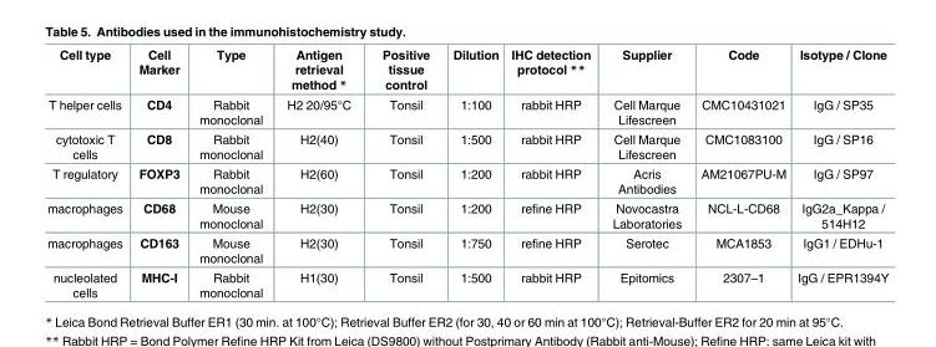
<table><thead><tr><td>Cell type</td><td>Cell Marker</td><td>Type</td><td>Antigen retrieval method *</td><td>Positive tissue control</td><td>Dilution</td><td>IHC detection protocol **</td><td>Supplier</td><td>Code</td><td>Isotype / Clone</td></tr></thead><tbody><tr><td>T helper cells</td><td>CD4</td><td>Rabbit monoclonal</td><td>H2 20/95°C</td><td>Tonsil</td><td>1:100</td><td>rabbit HRP</td><td>Cell Marque Lifescreen</td><td>CMC10431021</td><td>IgG / SP35</td></tr><tr><td>cytotoxic T cells</td><td>CD8</td><td>Rabbit monoclonal</td><td>H2(40)</td><td>Tonsil</td><td>1:500</td><td>rabbit HRP</td><td>Cell Marque Lifescreen</td><td>CMC1083100</td><td>IgG / SP16</td></tr><tr><td>T regulatory</td><td>FOXP3</td><td>Rabbit monoclonal</td><td>H2(60)</td><td>Tonsil</td><td>1:200</td><td>rabbit HRP</td><td>Acris Antibodies</td><td>AM21067PU-M</td><td>IgG / SP97</td></tr><tr><td>macrophages</td><td>CD68</td><td>Mouse monoclonal</td><td>H2(30)</td><td>Tonsil</td><td>1:200</td><td>refine HRP</td><td>Novocastra Laboratories</td><td>NCL-L-CD68</td><td>IgG2a_Kappa / 514H12</td></tr><tr><td>macrophages</td><td>CD163</td><td>Mouse monoclonal</td><td>H2(30)</td><td>Tonsil</td><td>1:750</td><td>refine HRP</td><td>Serotec</td><td>MCA1853</td><td>IgG1 / EDHu-1</td></tr><tr><td>nucleolated cells</td><td>MHC-I</td><td>Rabbit monoclonal</td><td>H1(30)</td><td>Tonsil</td><td>1:500</td><td>rabbit HRP</td><td>Epitomics</td><td>2307–1</td><td>IgG / EPR1394Y</td></tr></tbody></table>